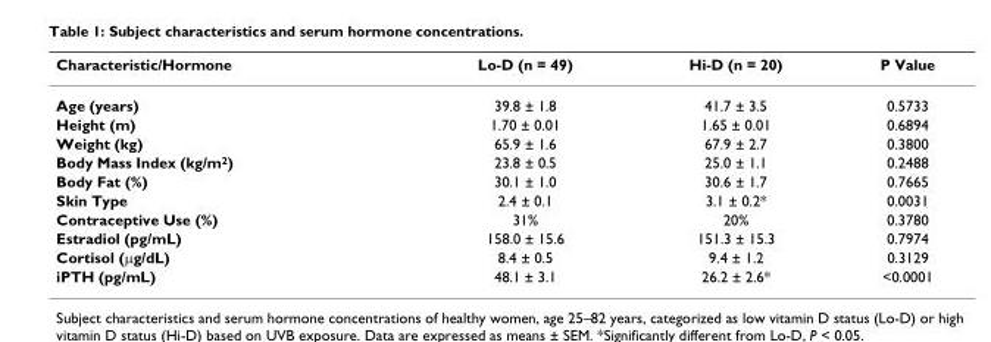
<table><thead><tr><td>Characteristic/Hormone</td><td>Lo-D (n = 49)</td><td>Hi-D (n = 20)</td><td>P Value</td></tr></thead><tbody><tr><td>Age (years)</td><td>39.8 ± 1.8</td><td>41.7 ± 3.5</td><td>0.5733</td></tr><tr><td>Height (m)</td><td>1.70 ± 0.01</td><td>1.65 ± 0.01</td><td>0.6894</td></tr><tr><td>Weight (kg)</td><td>65.9 ± 1.6</td><td>67.9 ± 2.7</td><td>0.3800</td></tr><tr><td>Body Mass Index (kg/m<sup>2</sup>)</td><td>23.8 ± 0.5</td><td>25.0 ± 1.1</td><td>0.2488</td></tr><tr><td>Body Fat (%)</td><td>30.1 ± 1.0</td><td>30.6 ± 1.7</td><td>0.7665</td></tr><tr><td>Skin Type</td><td>2.4 ± 0.1</td><td>3.1 ± 0.2*</td><td>0.0031</td></tr><tr><td>Contraceptive Use (%)</td><td>31%</td><td>20%</td><td>0.3780</td></tr><tr><td>Estradiol (pg/mL)</td><td>158.0 ± 15.6</td><td>151.3 ± 15.3</td><td>0.7974</td></tr><tr><td>Cortisol (μg/dL)</td><td>8.4 ± 0.5</td><td>9.4 ± 1.2</td><td>0.3129</td></tr><tr><td>iPTH (pg/mL)</td><td>48.1 ± 3.1</td><td>26.2 ± 2.6*</td><td>&lt;0.0001</td></tr></tbody></table>